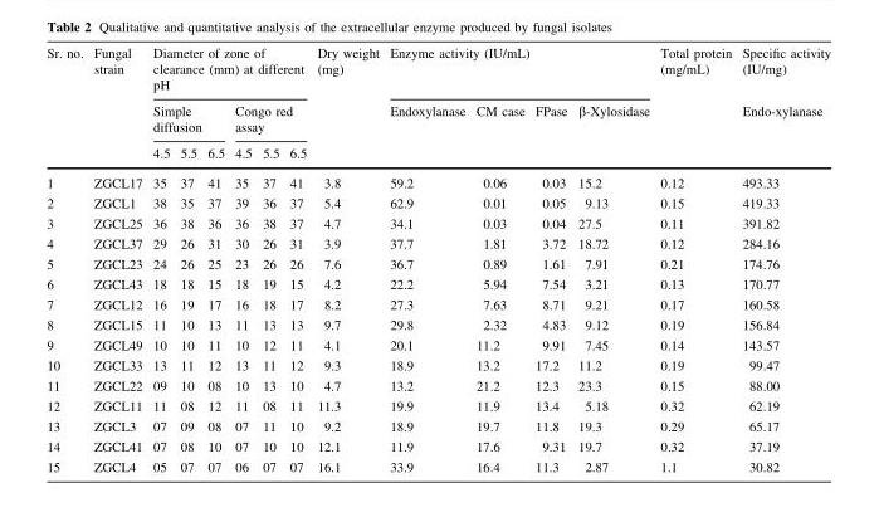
<table><thead><tr><td rowspan="3">Sr. no.</td><td rowspan="3">Fungal strain</td><td colspan="6">Diameter of zone of clearance (mm) at different pH</td><td rowspan="3">Dry weight (mg)</td><td colspan="4">Enzyme activity (IU/mL)</td><td rowspan="3">Total protein (mg/mL)</td><td rowspan="3">Specific activity (IU/mg) Endo-xylanase</td></tr><tr><td colspan="3">Simple diffusion</td><td colspan="3">Congo red assay</td><td rowspan="2">Endoxylanase</td><td rowspan="2">CM case</td><td rowspan="2">FPase</td><td rowspan="2">β-Xylosidase</td></tr><tr><td>4.5</td><td>5.5</td><td>6.5</td><td>4.5</td><td>5.5</td><td>6.5</td></tr></thead><tbody><tr><td>1</td><td>ZGCL17</td><td>35</td><td>37</td><td>41</td><td>35</td><td>37</td><td>41</td><td>3.8</td><td>59.2</td><td>0.06</td><td>0.03</td><td>15.2</td><td>0.12</td><td>493.33</td></tr><tr><td>2</td><td>ZGCL1</td><td>38</td><td>35</td><td>37</td><td>39</td><td>36</td><td>37</td><td>5.4</td><td>62.9</td><td>0.01</td><td>0.05</td><td>9.13</td><td>0.15</td><td>419.33</td></tr><tr><td>3</td><td>ZGCL25</td><td>36</td><td>38</td><td>36</td><td>36</td><td>38</td><td>37</td><td>4.7</td><td>34.1</td><td>0.03</td><td>0.04</td><td>27.5</td><td>0.11</td><td>391.82</td></tr><tr><td>4</td><td>ZGCL37</td><td>29</td><td>26</td><td>31</td><td>30</td><td>26</td><td>31</td><td>3.9</td><td>37.7</td><td>1.81</td><td>3.72</td><td>18.72</td><td>0.12</td><td>284.16</td></tr><tr><td>5</td><td>ZGCL23</td><td>24</td><td>26</td><td>25</td><td>23</td><td>26</td><td>26</td><td>7.6</td><td>36.7</td><td>0.89</td><td>1.61</td><td>7.91</td><td>0.21</td><td>174.76</td></tr><tr><td>6</td><td>ZGCL43</td><td>18</td><td>18</td><td>15</td><td>18</td><td>19</td><td>15</td><td>4.2</td><td>22.2</td><td>5.94</td><td>7.54</td><td>3.21</td><td>0.13</td><td>170.77</td></tr><tr><td>7</td><td>ZGCL12</td><td>16</td><td>19</td><td>17</td><td>16</td><td>18</td><td>17</td><td>8.2</td><td>27.3</td><td>7.63</td><td>8.71</td><td>9.21</td><td>0.17</td><td>160.58</td></tr><tr><td>8</td><td>ZGCL15</td><td>11</td><td>10</td><td>13</td><td>11</td><td>13</td><td>13</td><td>9.7</td><td>29.8</td><td>2.32</td><td>4.83</td><td>9.12</td><td>0.19</td><td>156.84</td></tr><tr><td>9</td><td>ZGCL49</td><td>10</td><td>10</td><td>11</td><td>10</td><td>12</td><td>11</td><td>4.1</td><td>20.1</td><td>11.2</td><td>9.91</td><td>7.45</td><td>0.14</td><td>143.57</td></tr><tr><td>10</td><td>ZGCL33</td><td>13</td><td>11</td><td>12</td><td>13</td><td>11</td><td>12</td><td>9.3</td><td>18.9</td><td>13.2</td><td>17.2</td><td>11.2</td><td>0.19</td><td>99.47</td></tr><tr><td>11</td><td>ZGCL22</td><td>09</td><td>10</td><td>08</td><td>10</td><td>13</td><td>10</td><td>4.7</td><td>13.2</td><td>21.2</td><td>12.3</td><td>23.3</td><td>0.15</td><td>88.00</td></tr><tr><td>12</td><td>ZGCL11</td><td>11</td><td>08</td><td>12</td><td>11</td><td>08</td><td>11</td><td>11.3</td><td>19.9</td><td>11.9</td><td>13.4</td><td>5.18</td><td>0.32</td><td>62.19</td></tr><tr><td>13</td><td>ZGCL3</td><td>07</td><td>09</td><td>08</td><td>07</td><td>11</td><td>10</td><td>9.2</td><td>18.9</td><td>19.7</td><td>11.8</td><td>19.3</td><td>0.29</td><td>65.17</td></tr><tr><td>14</td><td>ZGCL41</td><td>07</td><td>08</td><td>10</td><td>07</td><td>10</td><td>10</td><td>12.1</td><td>11.9</td><td>17.6</td><td>9.31</td><td>19.7</td><td>0.32</td><td>37.19</td></tr><tr><td>15</td><td>ZGCL4</td><td>05</td><td>07</td><td>07</td><td>06</td><td>07</td><td>07</td><td>16.1</td><td>33.9</td><td>16.4</td><td>11.3</td><td>2.87</td><td>1.1</td><td>30.82</td></tr></tbody></table>